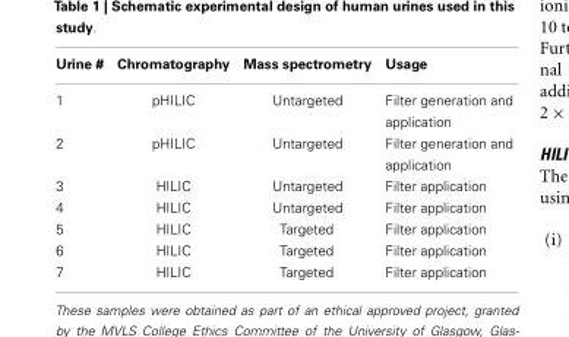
<table><thead><tr><td>Urine #</td><td>Chromatography</td><td>Mass spectrometry</td><td>Usage</td></tr></thead><tbody><tr><td>1</td><td>pHILIC</td><td>Untargeted</td><td>Filter generation and application</td></tr><tr><td>2</td><td>pHILIC</td><td>Untargeted</td><td>Filter generation and application</td></tr><tr><td>3</td><td>HILIC</td><td>Untargeted</td><td>Filter application</td></tr><tr><td>4</td><td>HILIC</td><td>Untargeted</td><td>Filter application</td></tr><tr><td>5</td><td>HILIC</td><td>Targeted</td><td>Filter application</td></tr><tr><td>6</td><td>HILIC</td><td>Targeted</td><td>Filter application</td></tr><tr><td>7</td><td>HILIC</td><td>Targeted</td><td>Filter application</td></tr></tbody></table>